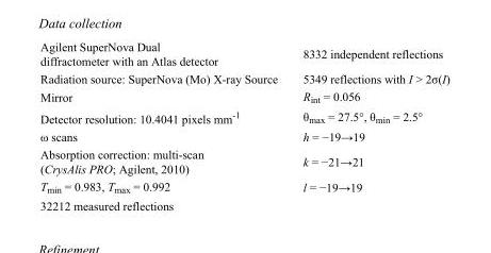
<table><tbody><tr><td>Agilent SuperNova Dual diffractometer with an Atlas detector</td><td>8332 independent reflections</td></tr><tr><td>Radiation source: SuperNova (Mo) X-ray Source</td><td>5349 reflections with I &gt; 2σ(I)</td></tr><tr><td>Mirror</td><td>R<sub>int</sub> = 0.056</td></tr><tr><td>Detector resolution: 10.4041 pixels mm<sup>-1</sup></td><td>θ<sub>max</sub> = 27.5°, θ<sub>min</sub> = 2.5°</td></tr><tr><td>ω scans</td><td>h = −19→19</td></tr><tr><td>Absorption correction: multi-scan (CrysAlis PRO; Agilent, 2010)</td><td>k = −21→21</td></tr><tr><td>T<sub>min</sub> = 0.983, T<sub>max</sub> = 0.992</td><td>l = −19→19</td></tr><tr><td>32212 measured reflections</td><td></td></tr></tbody></table>